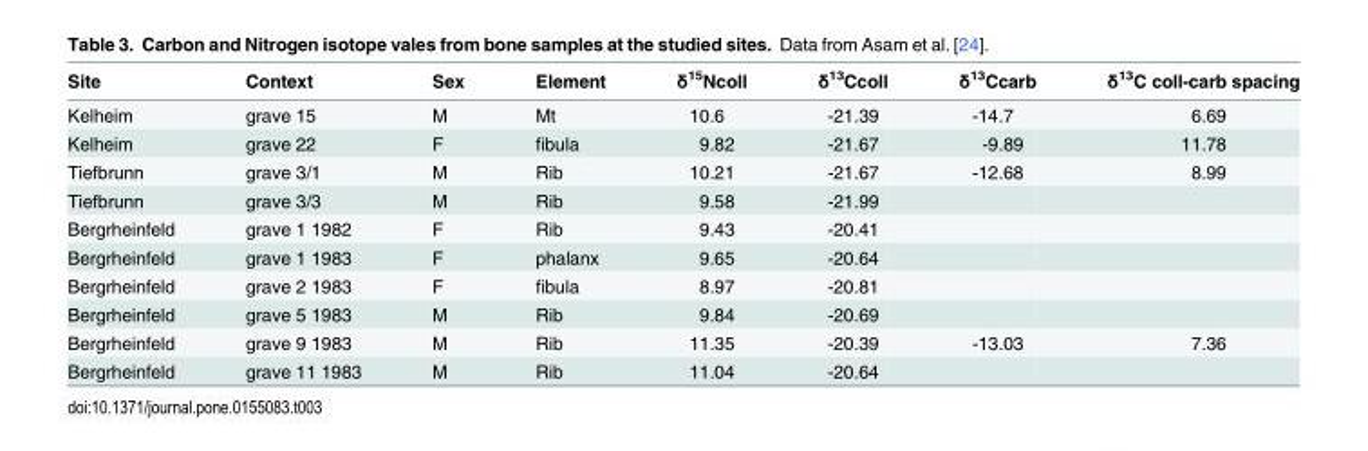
<table><thead><tr><td>Site</td><td>Context</td><td>Sex</td><td>Element</td><td>δ<sup>15</sup>Ncoll</td><td>δ<sup>13</sup>Ccoll</td><td>δ<sup>13</sup>Ccarb</td><td>δ<sup>13</sup>C coll-carb spacing</td></tr></thead><tbody><tr><td>Kelheim</td><td>grave 15</td><td>M</td><td>Mt</td><td>10.6</td><td>-21.39</td><td>-14.7</td><td>6.69</td></tr><tr><td>Kelheim</td><td>grave 22</td><td>F</td><td>fibula</td><td>9.82</td><td>-21.67</td><td>-9.89</td><td>11.78</td></tr><tr><td>Tiefbrunn</td><td>grave 3/1</td><td>M</td><td>Rib</td><td>10.21</td><td>-21.67</td><td>-12.68</td><td>8.99</td></tr><tr><td>Tiefbrunn</td><td>grave 3/3</td><td>M</td><td>Rib</td><td>9.58</td><td>-21.99</td><td></td><td></td></tr><tr><td>Bergrheinfeld</td><td>grave 1 1982</td><td>F</td><td>Rib</td><td>9.43</td><td>-20.41</td><td></td><td></td></tr><tr><td>Bergrheinfeld</td><td>grave 1 1983</td><td>F</td><td>phalanx</td><td>9.65</td><td>-20.64</td><td></td><td></td></tr><tr><td>Bergrheinfeld</td><td>grave 2 1983</td><td>F</td><td>fibula</td><td>8.97</td><td>-20.81</td><td></td><td></td></tr><tr><td>Bergrheinfeld</td><td>grave 5 1983</td><td>M</td><td>Rib</td><td>9.84</td><td>-20.69</td><td></td><td></td></tr><tr><td>Bergrheinfeld</td><td>grave 9 1983</td><td>M</td><td>Rib</td><td>11.35</td><td>-20.39</td><td>-13.03</td><td>7.36</td></tr><tr><td>Bergrheinfeld</td><td>grave 11 1983</td><td>M</td><td>Rib</td><td>11.04</td><td>-20.64</td><td></td><td></td></tr></tbody></table>